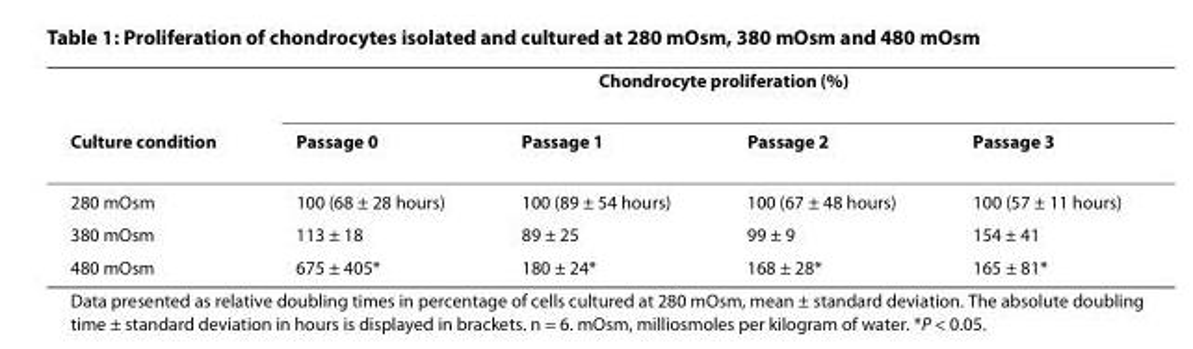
<table><thead><tr><td rowspan="2">Culture condition</td><td colspan="4">Chondrocyte proliferation (%)</td></tr><tr><td>Passage 0</td><td>Passage 1</td><td>Passage 2</td><td>Passage 3</td></tr></thead><tbody><tr><td>280 mOsm</td><td>100 (68 ± 28 hours)</td><td>100 (89 ± 54 hours)</td><td>100 (67 ± 48 hours)</td><td>100 (57 ± 11 hours)</td></tr><tr><td>380 mOsm</td><td>113 ± 18</td><td>89 ± 25</td><td>99 ± 9</td><td>154 ± 41</td></tr><tr><td>480 mOsm</td><td>675 ± 405*</td><td>180 ± 24*</td><td>168 ± 28*</td><td>165 ± 81*</td></tr></tbody></table>